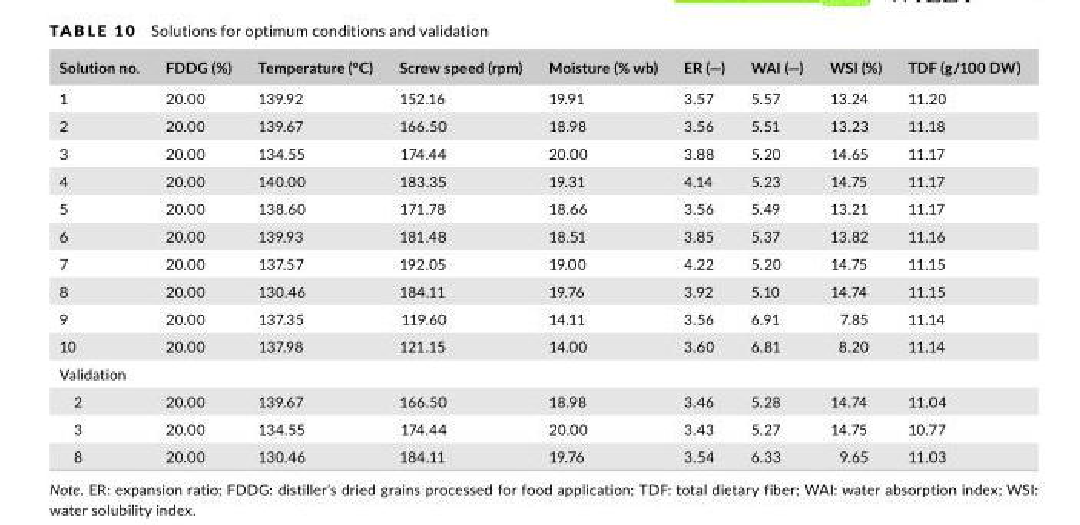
<table><thead><tr><td>Solution no.</td><td>FDDG (%)</td><td>Temperature (°C)</td><td>Screw speed (rpm)</td><td>Moisture (% wb)</td><td>ER (—)</td><td>WAI (—)</td><td>WSI (%)</td><td>TDF (g/100 DW)</td></tr></thead><tbody><tr><td>1</td><td>20.00</td><td>139.92</td><td>152.16</td><td>19.91</td><td>3.57</td><td>5.57</td><td>13.24</td><td>11.20</td></tr><tr><td>2</td><td>20.00</td><td>139.67</td><td>166.50</td><td>18.98</td><td>3.56</td><td>5.51</td><td>13.23</td><td>11.18</td></tr><tr><td>3</td><td>20.00</td><td>134.55</td><td>174.44</td><td>20.00</td><td>3.88</td><td>5.20</td><td>14.65</td><td>11.17</td></tr><tr><td>4</td><td>20.00</td><td>140.00</td><td>183.35</td><td>19.31</td><td>4.14</td><td>5.23</td><td>14.75</td><td>11.17</td></tr><tr><td>5</td><td>20.00</td><td>138.60</td><td>171.78</td><td>18.66</td><td>3.56</td><td>5.49</td><td>13.21</td><td>11.17</td></tr><tr><td>6</td><td>20.00</td><td>139.93</td><td>181.48</td><td>18.51</td><td>3.85</td><td>5.37</td><td>13.82</td><td>11.16</td></tr><tr><td>7</td><td>20.00</td><td>137.57</td><td>192.05</td><td>19.00</td><td>4.22</td><td>5.20</td><td>14.75</td><td>11.15</td></tr><tr><td>8</td><td>20.00</td><td>130.46</td><td>184.11</td><td>19.76</td><td>3.92</td><td>5.10</td><td>14.74</td><td>11.15</td></tr><tr><td>9</td><td>20.00</td><td>137.35</td><td>119.60</td><td>14.11</td><td>3.56</td><td>6.91</td><td>7.85</td><td>11.14</td></tr><tr><td>10</td><td>20.00</td><td>137.98</td><td>121.15</td><td>14.00</td><td>3.60</td><td>6.81</td><td>8.20</td><td>11.14</td></tr><tr><td colspan="9">Validation</td></tr><tr><td>2</td><td>20.00</td><td>139.67</td><td>166.50</td><td>18.98</td><td>3.46</td><td>5.28</td><td>14.74</td><td>11.04</td></tr><tr><td>3</td><td>20.00</td><td>134.55</td><td>174.44</td><td>20.00</td><td>3.43</td><td>5.27</td><td>14.75</td><td>10.77</td></tr><tr><td>8</td><td>20.00</td><td>130.46</td><td>184.11</td><td>19.76</td><td>3.54</td><td>6.33</td><td>9.65</td><td>11.03</td></tr></tbody></table>